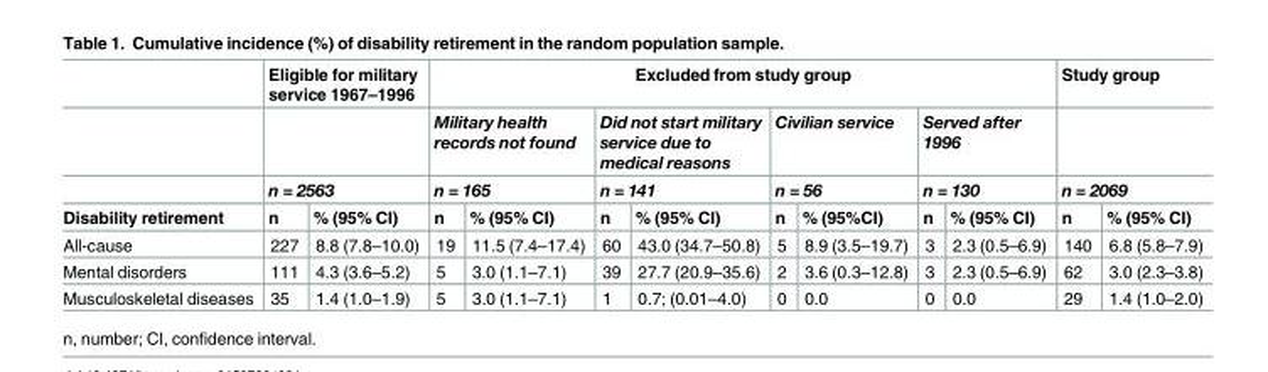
<table><thead><tr><td rowspan="4">Disability retirement</td><td colspan="2">Eligible for military service 1967–1996</td><td colspan="8">Excluded from study group</td><td colspan="2">Study group</td></tr><tr><td></td><td></td><td rowspan="2" colspan="2">Military health records not found n = 165</td><td rowspan="2" colspan="2">Did not start military service due to medical reasons n = 141</td><td rowspan="2" colspan="2">Civilian service n = 56</td><td rowspan="2" colspan="2">Served after 1996 n = 130</td><td></td><td></td></tr><tr><td colspan="2">n = 2563</td><td colspan="2">n = 2069</td></tr><tr><td>n</td><td>% (95% CI)</td><td>n</td><td>% (95% CI)</td><td>n</td><td>% (95% CI)</td><td>n</td><td>% (95%CI)</td><td>n</td><td>% (95% CI)</td><td>n</td><td>% (95% CI)</td></tr></thead><tbody><tr><td>All-cause</td><td>227</td><td>8.8 (7.8–10.0)</td><td>19</td><td>11.5 (7.4–17.4)</td><td>60</td><td>43.0 (34.7–50.8)</td><td>5</td><td>8.9 (3.5–19.7)</td><td>3</td><td>2.3 (0.5–6.9)</td><td>140</td><td>6.8 (5.8–7.9)</td></tr><tr><td>Mental disorders</td><td>111</td><td>4.3 (3.6–5.2)</td><td>5</td><td>3.0 (1.1–7.1)</td><td>39</td><td>27.7 (20.9–35.6)</td><td>2</td><td>3.6 (0.3–12.8)</td><td>3</td><td>2.3 (0.5–6.9)</td><td>62</td><td>3.0 (2.3–3.8)</td></tr><tr><td>Musculoskeletal diseases</td><td>35</td><td>1.4 (1.0–1.9)</td><td>5</td><td>3.0 (1.1–7.1)</td><td>1</td><td>0.7; (0.01–4.0)</td><td>0</td><td>0.0</td><td>0</td><td>0.0</td><td>29</td><td>1.4 (1.0–2.0)</td></tr></tbody></table>